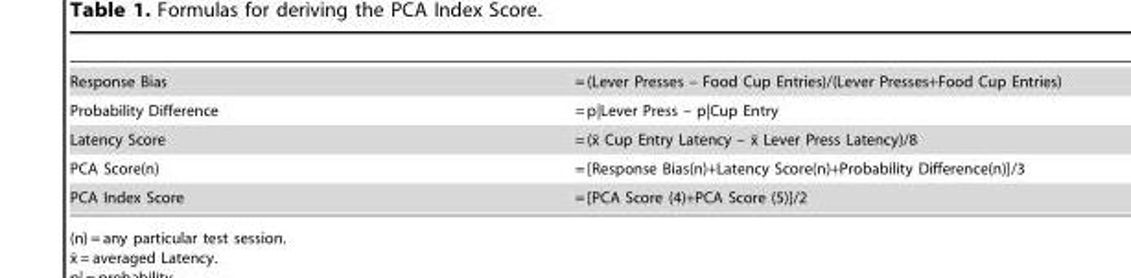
<table><tbody><tr><td>Response Bias</td><td>= (Lever Presses – Food Cup Entries)/(Lever Presses+Food Cup Entries)</td></tr><tr><td>Probability Difference</td><td>= p|Lever Press – p|Cup Entry</td></tr><tr><td>Latency Score</td><td>= (x¯ Cup Entry Latency – x¯ Lever Press Latency)/8</td></tr><tr><td>PCA Score(n)</td><td>= [Response Bias(n)+Latency Score(n)+Probability Difference(n)]/3</td></tr><tr><td>PCA Index Score</td><td>= [PCA Score (4)+PCA Score (5)]/2</td></tr></tbody></table>